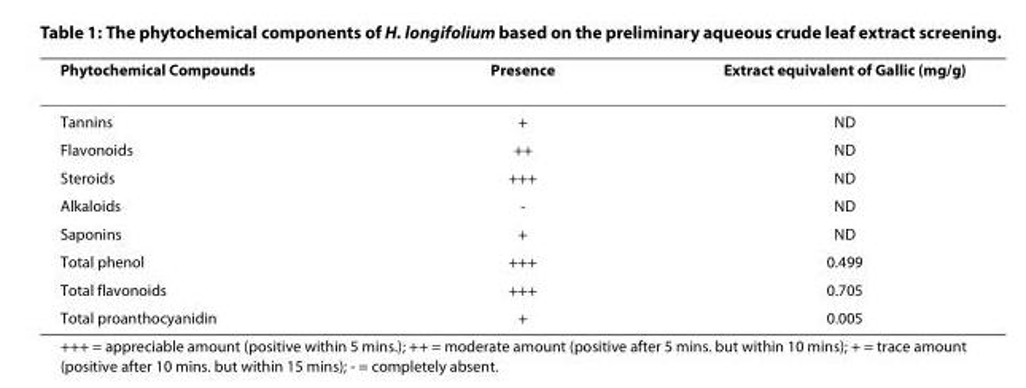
<table><thead><tr><td>Phytochemical Compounds</td><td>Presence</td><td>Extract equivalent of Gallic (mg/g)</td></tr></thead><tbody><tr><td>Tannins</td><td>+</td><td>ND</td></tr><tr><td>Flavonoids</td><td>++</td><td>ND</td></tr><tr><td>Steroids</td><td>+++</td><td>ND</td></tr><tr><td>Alkaloids</td><td>-</td><td>ND</td></tr><tr><td>Saponins</td><td>+</td><td>ND</td></tr><tr><td>Total phenol</td><td>+++</td><td>0.499</td></tr><tr><td>Total flavonoids</td><td>+++</td><td>0.705</td></tr><tr><td>Total proanthocyanidin</td><td>+</td><td>0.005</td></tr></tbody></table>